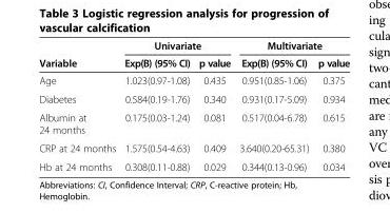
<table><thead><tr><td rowspan="2">Variable</td><td colspan="2">Univariate</td><td colspan="2">Multivariate</td></tr><tr><td>Exp(B) (95% CI)</td><td>p value</td><td>Exp(B) (95% CI)</td><td>p value</td></tr></thead><tbody><tr><td>Age</td><td>1.023(0.97-1.08)</td><td>0.435</td><td>0.951(0.85-1.06)</td><td>0.375</td></tr><tr><td>Diabetes</td><td>0.584(0.19-1.76)</td><td>0.340</td><td>0.931(0.17-5.09)</td><td>0.934</td></tr><tr><td>Albumin at 24 months</td><td>0.175(0.03-1.24)</td><td>0.081</td><td>0.517(0.04-6.78)</td><td>0.615</td></tr><tr><td>CRP at 24 months</td><td>1.575(0.54-4.63)</td><td>0.409</td><td>3.640(0.20-65.31)</td><td>0.380</td></tr><tr><td>Hb at 24 months</td><td>0.308(0.11-0.88)</td><td>0.029</td><td>0.344(0.13-0.96)</td><td>0.034</td></tr></tbody></table>